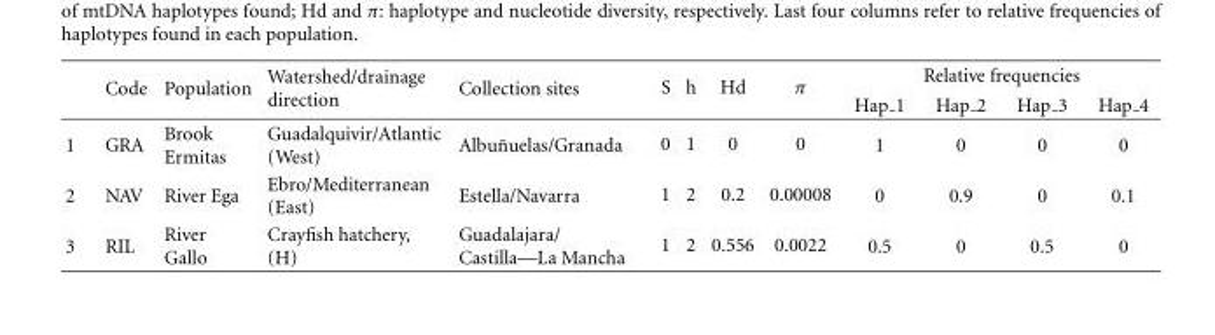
<table><thead><tr><td rowspan="2"></td><td rowspan="2">Code</td><td rowspan="2">Population</td><td rowspan="2">Watershed/drainage direction</td><td rowspan="2">Collection sites</td><td rowspan="2">S</td><td rowspan="2">h</td><td rowspan="2">Hd</td><td rowspan="2">π</td><td colspan="4">Relative frequencies</td></tr><tr><td>Hap 1</td><td>Hap 2</td><td>Hap 3</td><td>Hap 4</td></tr></thead><tbody><tr><td>1</td><td>GRA</td><td>Brook Ermitas</td><td>Guadalquivir/Atlantic (West)</td><td>Albu˜nuelas/Granada</td><td>0</td><td>1</td><td>0</td><td>0</td><td>1</td><td>0</td><td>0</td><td>0</td></tr><tr><td>2</td><td>NAV</td><td>River Ega</td><td>Ebro/Mediterranean (East)</td><td>Estella/Navarra</td><td>1</td><td>2</td><td>0.2</td><td>0.00008</td><td>0</td><td>0.9</td><td>0</td><td>0.1</td></tr><tr><td>3</td><td>RIL</td><td>River Gallo</td><td>Crayfish hatchery, (H)</td><td>Guadalajara/ Castilla—La Mancha</td><td>1</td><td>2</td><td>0.556</td><td>0.0022</td><td>0.5</td><td>0</td><td>0.5</td><td>0</td></tr></tbody></table>